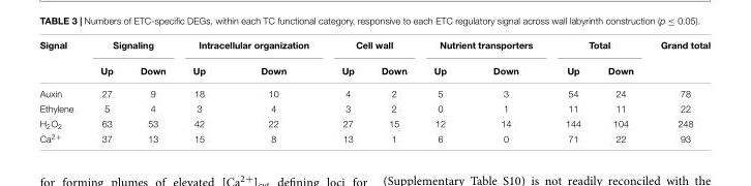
<table><thead><tr><td rowspan="2">Signal</td><td colspan="2">Signaling</td><td colspan="2">Intracellular organization</td><td colspan="2">Cell wall</td><td colspan="2">Nutrient transporters</td><td colspan="2">Total</td><td rowspan="2">Grand total</td></tr><tr><td>Up</td><td>Down</td><td>Up</td><td>Down</td><td>Up</td><td>Down</td><td>Up</td><td>Down</td><td>Up</td><td>Down</td></tr></thead><tbody><tr><td>Auxin</td><td>27</td><td>9</td><td>18</td><td>10</td><td>4</td><td>2</td><td>5</td><td>3</td><td>54</td><td>24</td><td>78</td></tr><tr><td>Ethylene</td><td>5</td><td>4</td><td>3</td><td>4</td><td>3</td><td>2</td><td>0</td><td>1</td><td>11</td><td>11</td><td>22</td></tr><tr><td>H<sub>2</sub>O<sub>2</sub></td><td>63</td><td>53</td><td>42</td><td>22</td><td>27</td><td>15</td><td>12</td><td>14</td><td>144</td><td>104</td><td>248</td></tr><tr><td>Ca<sup>2+</sup></td><td>37</td><td>13</td><td>15</td><td>8</td><td>13</td><td>1</td><td>6</td><td>0</td><td>71</td><td>22</td><td>93</td></tr></tbody></table>